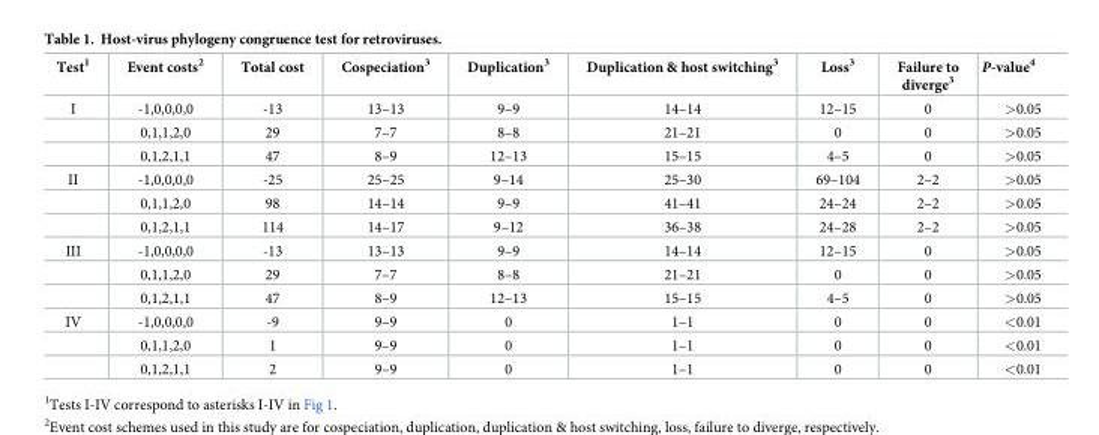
<table><thead><tr><td>Test<sup>1</sup></td><td>Event costs<sup>2</sup></td><td>Total cost</td><td>Cospeciation<sup>3</sup></td><td>Duplication<sup>3</sup></td><td>Duplication &amp; host switching<sup>3</sup></td><td>Loss<sup>3</sup></td><td>Failure to diverge<sup>3</sup></td><td>P-value<sup>4</sup></td></tr></thead><tbody><tr><td rowspan="3">I</td><td>-1,0,0,0,0</td><td>-13</td><td>13–13</td><td>9–9</td><td>14–14</td><td>12–15</td><td>0</td><td>&gt;0.05</td></tr><tr><td>0,1,1,2,0</td><td>29</td><td>7–7</td><td>8–8</td><td>21–21</td><td>0</td><td>0</td><td>&gt;0.05</td></tr><tr><td>0,1,2,1,1</td><td>47</td><td>8–9</td><td>12–13</td><td>15–15</td><td>4–5</td><td>0</td><td>&gt;0.05</td></tr><tr><td rowspan="3">II</td><td>-1,0,0,0,0</td><td>-25</td><td>25–25</td><td>9–14</td><td>25–30</td><td>69–104</td><td>2–2</td><td>&gt;0.05</td></tr><tr><td>0,1,1,2,0</td><td>98</td><td>14–14</td><td>9–9</td><td>41–41</td><td>24–24</td><td>2–2</td><td>&gt;0.05</td></tr><tr><td>0,1,2,1,1</td><td>114</td><td>14–17</td><td>9–12</td><td>36–38</td><td>24–28</td><td>2–2</td><td>&gt;0.05</td></tr><tr><td rowspan="3">III</td><td>-1,0,0,0,0</td><td>-13</td><td>13–13</td><td>9–9</td><td>14–14</td><td>12–15</td><td>0</td><td>&gt;0.05</td></tr><tr><td>0,1,1,2,0</td><td>29</td><td>7–7</td><td>8–8</td><td>21–21</td><td>0</td><td>0</td><td>&gt;0.05</td></tr><tr><td>0,1,2,1,1</td><td>47</td><td>8–9</td><td>12–13</td><td>15–15</td><td>4–5</td><td>0</td><td>&gt;0.05</td></tr><tr><td rowspan="3">IV</td><td>-1,0,0,0,0</td><td>-9</td><td>9–9</td><td>0</td><td>1–1</td><td>0</td><td>0</td><td>&lt;0.01</td></tr><tr><td>0,1,1,2,0</td><td>1</td><td>9–9</td><td>0</td><td>1–1</td><td>0</td><td>0</td><td>&lt;0.01</td></tr><tr><td>0,1,2,1,1</td><td>2</td><td>9–9</td><td>0</td><td>1–1</td><td>0</td><td>0</td><td>&lt;0.01</td></tr></tbody></table>